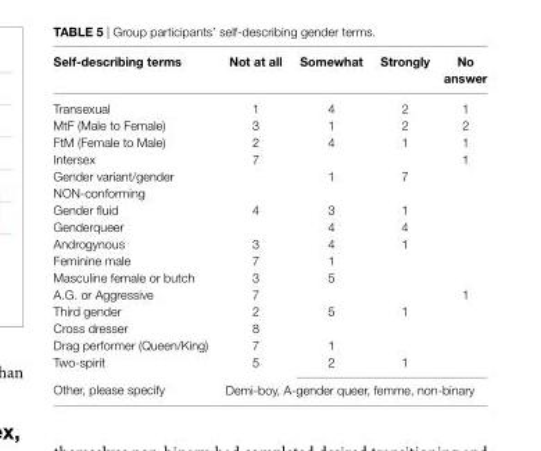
<table><thead><tr><td>self-describing terms</td><td>not at all</td><td>somewhat</td><td>strongly</td><td>no answer</td></tr></thead><tbody><tr><td>Transexual</td><td>1</td><td>4</td><td>2</td><td>1</td></tr><tr><td>MtF (Male to Female)</td><td>3</td><td>1</td><td>2</td><td>2</td></tr><tr><td>FtM (Female to Male)</td><td>2</td><td>4</td><td>1</td><td>1</td></tr><tr><td>Intersex</td><td>7</td><td></td><td></td><td>1</td></tr><tr><td>Gender variant/gender NON-conforming</td><td></td><td>1</td><td>7</td><td></td></tr><tr><td>Gender fluid</td><td>4</td><td>3</td><td>1</td><td></td></tr><tr><td>Genderqueer</td><td></td><td>4</td><td>4</td><td></td></tr><tr><td>Androgynous</td><td>3</td><td>4</td><td>1</td><td></td></tr><tr><td>Feminine male</td><td>7</td><td>1</td><td></td><td></td></tr><tr><td>Masculine female or butch</td><td>3</td><td>5</td><td></td><td></td></tr><tr><td>A.G. or Aggressive</td><td>7</td><td></td><td></td><td>1</td></tr><tr><td>Third gender</td><td>2</td><td>5</td><td>1</td><td></td></tr><tr><td>Cross dresser</td><td>8</td><td></td><td></td><td></td></tr><tr><td>Drag performer (Queen/King)</td><td>7</td><td>1</td><td></td><td></td></tr><tr><td>Two-spirit</td><td>5</td><td>2</td><td>1</td><td></td></tr><tr><td>Other, please specify</td><td colspan="4">Demi-boy, A-gender queer, femme, non-binary</td></tr></tbody></table>